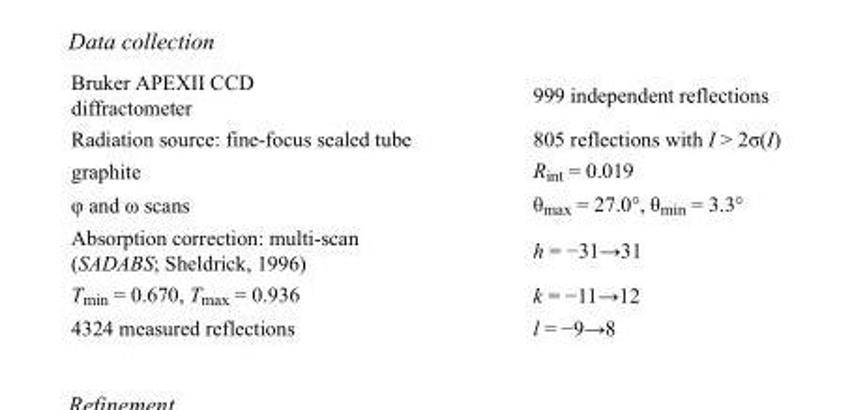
<table><tbody><tr><td>Bruker APEXII CCD diffractometer</td><td>999 independent reflections</td></tr><tr><td>Radiation source: fine-focus sealed tube</td><td>805 reflections with I &gt; 2σ(I)</td></tr><tr><td>graphite</td><td>R<sub>int</sub> = 0.019</td></tr><tr><td>φ and ω scans</td><td>θ<sub>max</sub> = 27.0°, θ<sub>min</sub> = 3.3°</td></tr><tr><td>Absorption correction: multi-scan (SADABS; Sheldrick, 1996)</td><td>h = −31→31</td></tr><tr><td>T<sub>min</sub> = 0.670, T<sub>max</sub> = 0.936</td><td>k = −11→12</td></tr><tr><td>4324 measured reflections</td><td>l = −9→8</td></tr></tbody></table>